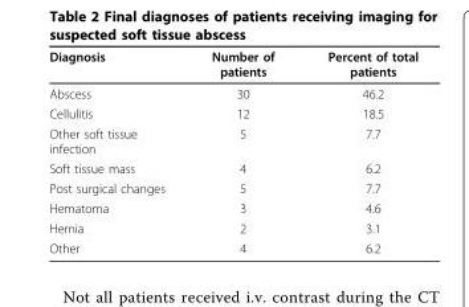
<table><thead><tr><td>Diagnosis</td><td>Number of patients</td><td>Percent of total patients</td></tr></thead><tbody><tr><td>Abscess</td><td>30</td><td>46.2</td></tr><tr><td>Cellulitis</td><td>12</td><td>18.5</td></tr><tr><td>Other soft tissue infection</td><td>5</td><td>7.7</td></tr><tr><td>Soft tissue mass</td><td>4</td><td>6.2</td></tr><tr><td>Post surgical changes</td><td>5</td><td>7.7</td></tr><tr><td>Hematoma</td><td>3</td><td>4.6</td></tr><tr><td>Hernia</td><td>2</td><td>3.1</td></tr><tr><td>Other</td><td>4</td><td>6.2</td></tr></tbody></table>